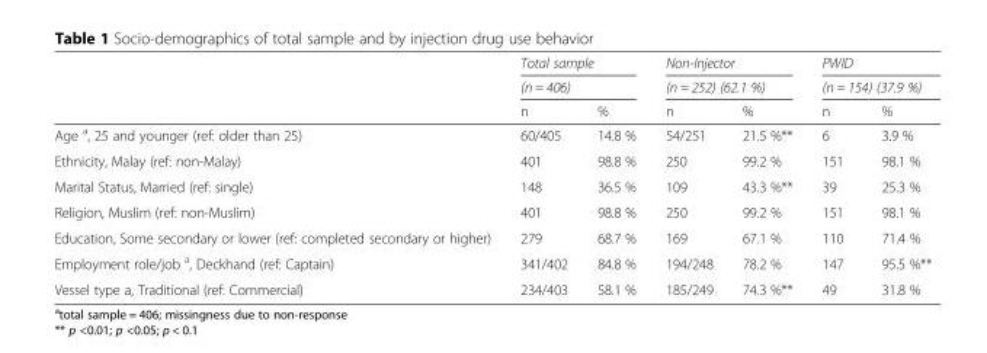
<table><thead><tr><td rowspan="3"></td><td rowspan="2" colspan="2">Total sample (n = 406)</td><td rowspan="2" colspan="2">Non-Injector (n = 252) (62.1 %)</td><td rowspan="2" colspan="2">PWID (n = 154) (37.9 %)</td></tr><tr></tr><tr><td>n</td><td>%</td><td>n</td><td>%</td><td>n</td><td>%</td></tr></thead><tbody><tr><td>Age <sup>a</sup>, 25 and younger (ref: older than 25)</td><td>60/405</td><td>14.8 %</td><td>54/251</td><td>21.5 %**</td><td>6</td><td>3.9 %</td></tr><tr><td>Ethnicity, Malay (ref: non-Malay)</td><td>401</td><td>98.8 %</td><td>250</td><td>99.2 %</td><td>151</td><td>98.1 %</td></tr><tr><td>Marital Status, Married (ref: single)</td><td>148</td><td>36.5 %</td><td>109</td><td>43.3 %**</td><td>39</td><td>25.3 %</td></tr><tr><td>Religion, Muslim (ref: non-Muslim)</td><td>401</td><td>98.8 %</td><td>250</td><td>99.2 %</td><td>151</td><td>98.1 %</td></tr><tr><td>Education, Some secondary or lower (ref: completed secondary or higher)</td><td>279</td><td>68.7 %</td><td>169</td><td>67.1 %</td><td>110</td><td>71.4 %</td></tr><tr><td>Employment role/job <sup>a</sup>, Deckhand (ref: Captain)</td><td>341/402</td><td>84.8 %</td><td>194/248</td><td>78.2 %</td><td>147</td><td>95.5 %**</td></tr><tr><td>Vessel type a, Traditional (ref: Commercial)</td><td>234/403</td><td>58.1 %</td><td>185/249</td><td>74.3 %**</td><td>49</td><td>31.8 %</td></tr></tbody></table>